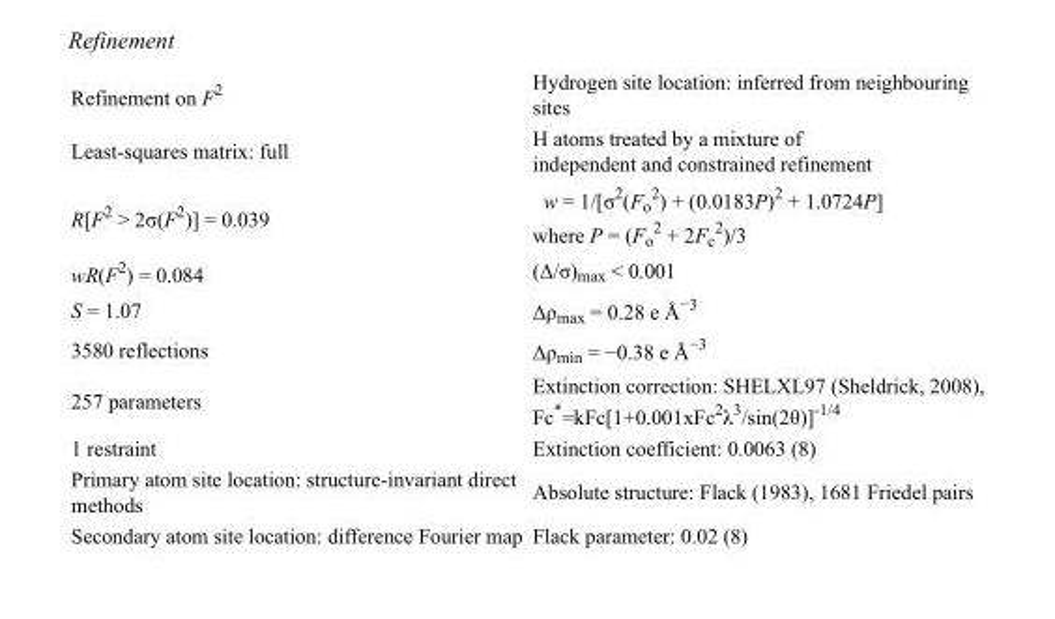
<table><tbody><tr><td>Refinement on F<sup>2</sup></td><td>Hydrogen site location: inferred from neighbouring sites</td></tr><tr><td>Least-squares matrix: full</td><td>H atoms treated by a mixture of independent and constrained refinement</td></tr><tr><td>R[F<sup>2</sup> &gt; 2σ(F<sup>2</sup>)] = 0.039</td><td>w = 1/[σ<sup>2</sup>(F<sub>o</sub> <sup>2</sup>) + (0.0183P)<sup>2</sup> + 1.0724P] where P = (F<sub>o</sub> <sup>2</sup> + 2F<sub>c</sub> <sup>2</sup>)/3</td></tr><tr><td>wR(F<sup>2</sup>) = 0.084</td><td>(Δ/σ)<sub>max</sub> &lt; 0.001</td></tr><tr><td>S = 1.07</td><td>Δρ<sub>max</sub> = 0.28 e Å<sup>−3</sup></td></tr><tr><td>3580 reflections</td><td>Δρ<sub>min</sub> = −0.38 e Å<sup>−3</sup></td></tr><tr><td>257 parameters</td><td>Extinction correction: SHELXL97 (Sheldrick, 2008), Fc*=kFc[1+0.001xFc<sup>2</sup>λ<sup>3</sup>/sin(2θ)]<sup>-1/4</sup></td></tr><tr><td>1 restraint</td><td>Extinction coefficient: 0.0063 (8)</td></tr><tr><td>Primary atom site location: structure-invariant direct methods</td><td>Absolute structure: Flack (1983), 1681 Friedel pairs</td></tr><tr><td>Secondary atom site location: difference Fourier map</td><td>Flack parameter: 0.02 (8)</td></tr></tbody></table>